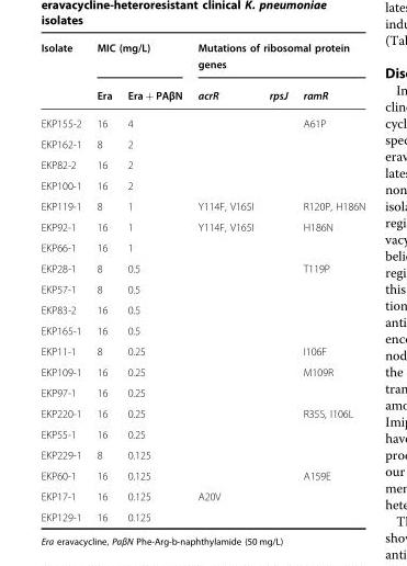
<table><thead><tr><td rowspan="2">Isolate</td><td colspan="2">MIC (mg/L)</td><td colspan="3">Mutations of ribosomal protein genes</td></tr><tr><td>Era</td><td>Era + PAβN</td><td>acrR</td><td>rpsJ</td><td>ramR</td></tr></thead><tbody><tr><td>EKP155-2</td><td>16</td><td>4</td><td></td><td></td><td>A61P</td></tr><tr><td>EKP162-1</td><td>8</td><td>2</td><td></td><td></td><td></td></tr><tr><td>EKP82-2</td><td>16</td><td>2</td><td></td><td></td><td></td></tr><tr><td>EKP100-1</td><td>16</td><td>2</td><td></td><td></td><td></td></tr><tr><td>EKP119-1</td><td>8</td><td>1</td><td>Y114F, V165I</td><td></td><td>R120P, H186N</td></tr><tr><td>EKP92-1</td><td>16</td><td>1</td><td>Y114F, V165I</td><td></td><td>H186N</td></tr><tr><td>EKP66-1</td><td>16</td><td>1</td><td></td><td></td><td></td></tr><tr><td>EKP28-1</td><td>8</td><td>0.5</td><td></td><td></td><td>T119P</td></tr><tr><td>EKP57-1</td><td>8</td><td>0.5</td><td></td><td></td><td></td></tr><tr><td>EKP83-2</td><td>16</td><td>0.5</td><td></td><td></td><td></td></tr><tr><td>EKP165-1</td><td>16</td><td>0.5</td><td></td><td></td><td></td></tr><tr><td>EKP11-1</td><td>8</td><td>0.25</td><td></td><td></td><td>I106F</td></tr><tr><td>EKP109-1</td><td>16</td><td>0.25</td><td></td><td></td><td>M109R</td></tr><tr><td>EKP97-1</td><td>16</td><td>0.25</td><td></td><td></td><td></td></tr><tr><td>EKP220-1</td><td>16</td><td>0.25</td><td></td><td></td><td>R35S, I106L</td></tr><tr><td>EKP55-1</td><td>16</td><td>0.25</td><td></td><td></td><td></td></tr><tr><td>EKP229-1</td><td>8</td><td>0.125</td><td></td><td></td><td></td></tr><tr><td>EKP60-1</td><td>16</td><td>0.125</td><td></td><td></td><td>A159E</td></tr><tr><td>EKP17-1</td><td>16</td><td>0.125</td><td>A20V</td><td></td><td></td></tr><tr><td>EKP129-1</td><td>16</td><td>0.125</td><td></td><td></td><td></td></tr></tbody></table>